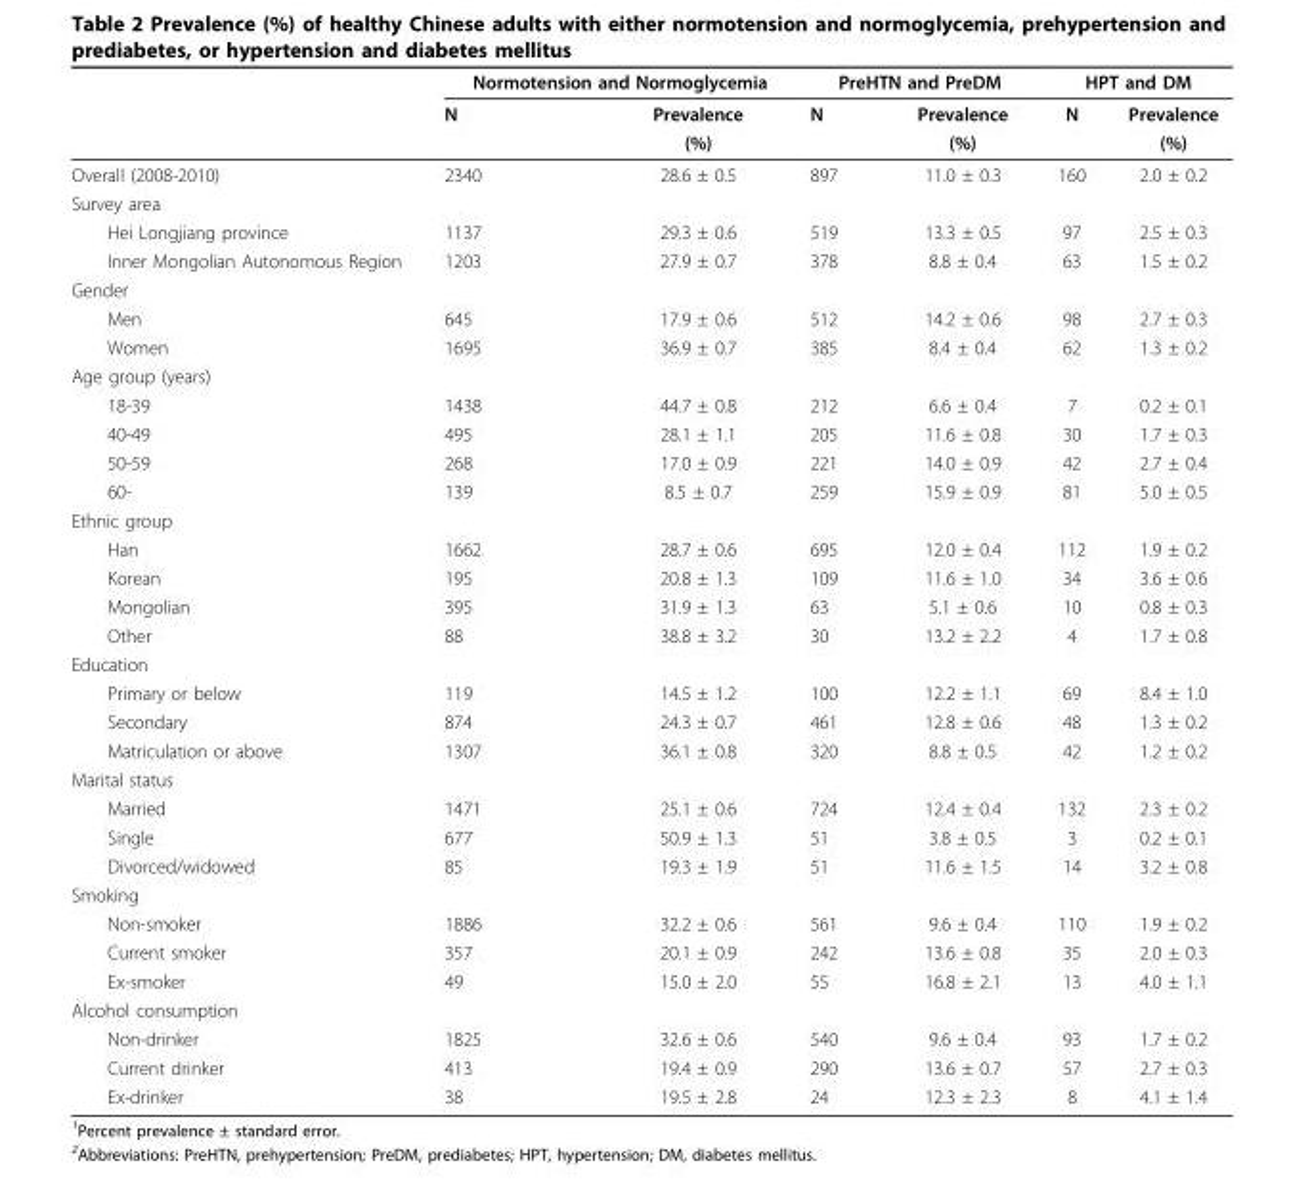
<table><thead><tr><td rowspan="3"></td><td colspan="2">Normotension and Normoglycemia</td><td colspan="2">PreHTN and PreDM</td><td colspan="2">HPT and DM</td></tr><tr><td rowspan="2">N</td><td rowspan="2">Prevalence (%)</td><td rowspan="2">N</td><td rowspan="2">Prevalence (%)</td><td rowspan="2">N</td><td rowspan="2">Prevalence (%)</td></tr><tr></tr></thead><tbody><tr><td>Overall (2008-2010)</td><td>2340</td><td>28.6 ± 0.5</td><td>897</td><td>11.0 ± 0.3</td><td>160</td><td>2.0 ± 0.2</td></tr><tr><td colspan="7">Survey area</td></tr><tr><td>Hei Longjiang province</td><td>1137</td><td>29.3 ± 0.6</td><td>519</td><td>13.3 ± 0.5</td><td>97</td><td>2.5 ± 0.3</td></tr><tr><td>Inner Mongolian Autonomous Region</td><td>1203</td><td>27.9 ± 0.7</td><td>378</td><td>8.8 ± 0.4</td><td>63</td><td>1.5 ± 0.2</td></tr><tr><td colspan="7">Gender</td></tr><tr><td>Men</td><td>645</td><td>17.9 ± 0.6</td><td>512</td><td>14.2 ± 0.6</td><td>98</td><td>2.7 ± 0.3</td></tr><tr><td>Women</td><td>1695</td><td>36.9 ± 0.7</td><td>385</td><td>8.4 ± 0.4</td><td>62</td><td>1.3 ± 0.2</td></tr><tr><td colspan="7">Age group (years)</td></tr><tr><td>18-39</td><td>1438</td><td>44.7 ± 0.8</td><td>212</td><td>6.6 ± 0.4</td><td>7</td><td>0.2 ± 0.1</td></tr><tr><td>40-49</td><td>495</td><td>28.1 ± 1.1</td><td>205</td><td>11.6 ± 0.8</td><td>30</td><td>1.7 ± 0.3</td></tr><tr><td>50-59</td><td>268</td><td>17.0 ± 0.9</td><td>221</td><td>14.0 ± 0.9</td><td>42</td><td>2.7 ± 0.4</td></tr><tr><td>60-</td><td>139</td><td>8.5 ± 0.7</td><td>259</td><td>15.9 ± 0.9</td><td>81</td><td>5.0 ± 0.5</td></tr><tr><td colspan="7">Ethnic group</td></tr><tr><td>Han</td><td>1662</td><td>28.7 ± 0.6</td><td>695</td><td>12.0 ± 0.4</td><td>112</td><td>1.9 ± 0.2</td></tr><tr><td>Korean</td><td>195</td><td>20.8 ± 1.3</td><td>109</td><td>11.6 ± 1.0</td><td>34</td><td>3.6 ± 0.6</td></tr><tr><td>Mongolian</td><td>395</td><td>31.9 ± 1.3</td><td>63</td><td>5.1 ± 0.6</td><td>10</td><td>0.8 ± 0.3</td></tr><tr><td>Other</td><td>88</td><td>38.8 ± 3.2</td><td>30</td><td>13.2 ± 2.2</td><td>4</td><td>1.7 ± 0.8</td></tr><tr><td colspan="7">Education</td></tr><tr><td>Primary or below</td><td>119</td><td>14.5 ± 1.2</td><td>100</td><td>12.2 ± 1.1</td><td>69</td><td>8.4 ± 1.0</td></tr><tr><td>Secondary</td><td>874</td><td>24.3 ± 0.7</td><td>461</td><td>12.8 ± 0.6</td><td>48</td><td>1.3 ± 0.2</td></tr><tr><td>Matriculation or above</td><td>1307</td><td>36.1 ± 0.8</td><td>320</td><td>8.8 ± 0.5</td><td>42</td><td>1.2 ± 0.2</td></tr><tr><td colspan="7">Marital status</td></tr><tr><td>Married</td><td>1471</td><td>25.1 ± 0.6</td><td>724</td><td>12.4 ± 0.4</td><td>132</td><td>2.3 ± 0.2</td></tr><tr><td>Single</td><td>677</td><td>50.9 ± 1.3</td><td>51</td><td>3.8 ± 0.5</td><td>3</td><td>0.2 ± 0.1</td></tr><tr><td>Divorced/widowed</td><td>85</td><td>19.3 ± 1.9</td><td>51</td><td>11.6 ± 1.5</td><td>14</td><td>3.2 ± 0.8</td></tr><tr><td colspan="7">Smoking</td></tr><tr><td>Non-smoker</td><td>1886</td><td>32.2 ± 0.6</td><td>561</td><td>9.6 ± 0.4</td><td>110</td><td>1.9 ± 0.2</td></tr><tr><td>Current smoker</td><td>357</td><td>20.1 ± 0.9</td><td>242</td><td>13.6 ± 0.8</td><td>35</td><td>2.0 ± 0.3</td></tr><tr><td>Ex-smoker</td><td>49</td><td>15.0 ± 2.0</td><td>55</td><td>16.8 ± 2.1</td><td>13</td><td>4.0 ± 1.1</td></tr><tr><td colspan="7">Alcohol consumption</td></tr><tr><td>Non-drinker</td><td>1825</td><td>32.6 ± 0.6</td><td>540</td><td>9.6 ± 0.4</td><td>93</td><td>1.7 ± 0.2</td></tr><tr><td>Current drinker</td><td>413</td><td>19.4 ± 0.9</td><td>290</td><td>13.6 ± 0.7</td><td>57</td><td>2.7 ± 0.3</td></tr><tr><td>Ex-drinker</td><td>38</td><td>19.5 ± 2.8</td><td>24</td><td>12.3 ± 2.3</td><td>8</td><td>4.1 ± 1.4</td></tr></tbody></table>